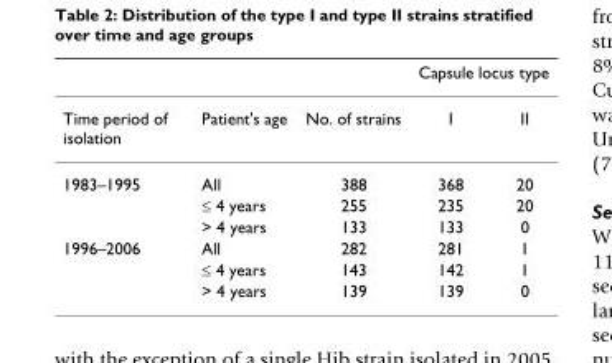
<table><thead><tr><td rowspan="2">Time period of isolation</td><td rowspan="2">Patient&#x27;s age</td><td rowspan="2">No. of strains</td><td colspan="2">Capsule locus type</td></tr><tr><td>I</td><td>II</td></tr></thead><tbody><tr><td rowspan="3">1983–1995</td><td>All</td><td>388</td><td>368</td><td>20</td></tr><tr><td>≤ 4 years</td><td>255</td><td>235</td><td>20</td></tr><tr><td>&gt; 4 years</td><td>133</td><td>133</td><td>0</td></tr><tr><td rowspan="3">1996–2006</td><td>All</td><td>282</td><td>281</td><td>1</td></tr><tr><td>≤ 4 years</td><td>143</td><td>142</td><td>1</td></tr><tr><td>&gt; 4 years</td><td>139</td><td>139</td><td>0</td></tr></tbody></table>